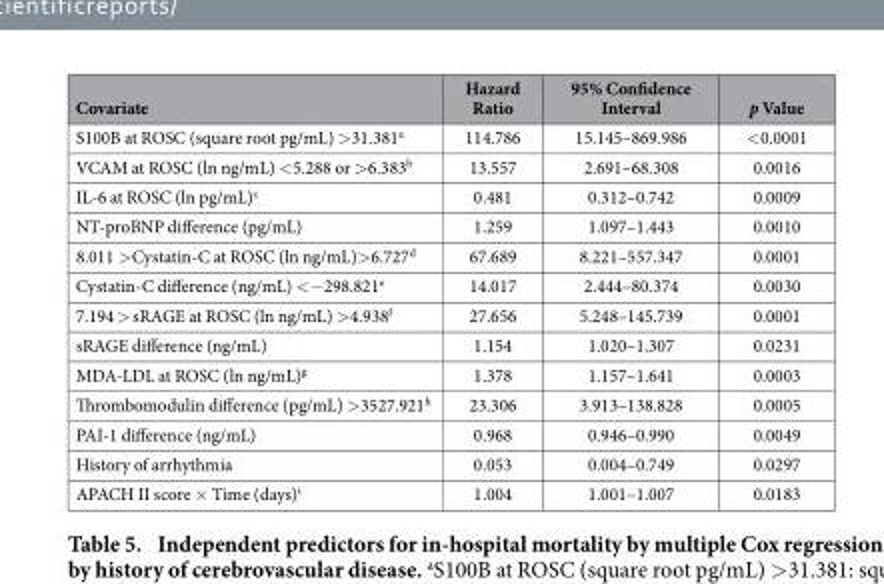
<table><thead><tr><td>Covariate</td><td>Hazard Ratio</td><td>95% Confidence Interval</td><td>p Value</td></tr></thead><tbody><tr><td>S100B at ROSC (square root pg/mL) &gt; 31.381<sup>a</sup></td><td>114.786</td><td>15.145–869.986</td><td>&lt; 0.0001</td></tr><tr><td>VCAM at ROSC (ln ng/mL) &lt; 5.288 or &gt; 6.383<sup>b</sup></td><td>13.557</td><td>2.691–68.308</td><td>0.0016</td></tr><tr><td>IL-6 at ROSC (ln pg/mL)<sup>c</sup></td><td>0.481</td><td>0.312–0.742</td><td>0.0009</td></tr><tr><td>NT-proBNP difference (pg/mL)</td><td>1.259</td><td>1.097–1.443</td><td>0.0010</td></tr><tr><td>8.011 &gt; Cystatin-C at ROSC (ln ng/mL)&gt; 6.727<sup>d</sup></td><td>67.689</td><td>8.221–557.347</td><td>0.0001</td></tr><tr><td>Cystatin-C difference (ng/mL) &lt; − 298.821<sup>e</sup></td><td>14.017</td><td>2.444–80.374</td><td>0.0030</td></tr><tr><td>7.194 &gt; sRAGE at ROSC (ln ng/mL) &gt; 4.938<sup>f</sup></td><td>27.656</td><td>5.248–145.739</td><td>0.0001</td></tr><tr><td>sRAGE difference (ng/mL)</td><td>1.154</td><td>1.020–1.307</td><td>0.0231</td></tr><tr><td>MDA-LDL at ROSC (ln ng/mL)<sup>g</sup></td><td>1.378</td><td>1.157–1.641</td><td>0.0003</td></tr><tr><td>Thrombomodulin difference (pg/mL) &gt; 3527.921<sup>h</sup></td><td>23.306</td><td>3.913–138.828</td><td>0.0005</td></tr><tr><td>PAI-1 difference (ng/mL)</td><td>0.968</td><td>0.946–0.990</td><td>0.0049</td></tr><tr><td>History of arrhythmia</td><td>0.053</td><td>0.004–0.749</td><td>0.0297</td></tr><tr><td>APACH II score × Time (days)<sup>i</sup></td><td>1.004</td><td>1.001–1.007</td><td>0.0183</td></tr></tbody></table>